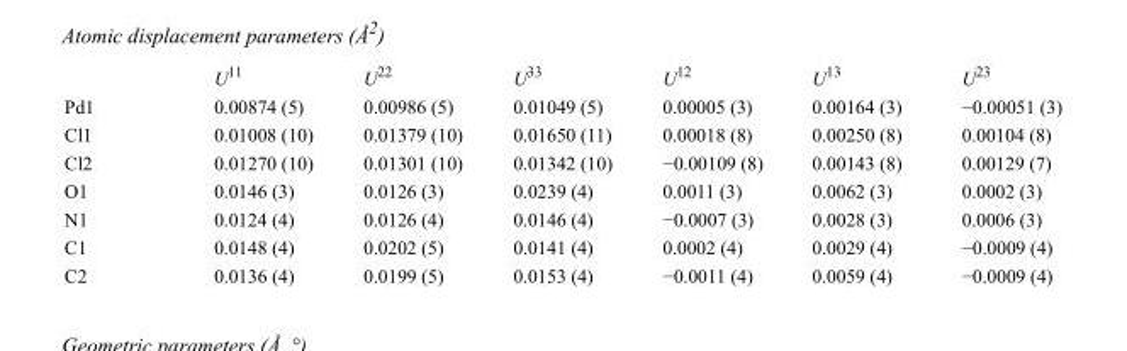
<table><thead><tr><td></td><td>U<sup>11</sup></td><td>U<sup>22</sup></td><td>U<sup>33</sup></td><td>U<sup>12</sup></td><td>U<sup>13</sup></td><td>U<sup>23</sup></td></tr></thead><tbody><tr><td>Pd1</td><td>0.00874 (5)</td><td>0.00986 (5)</td><td>0.01049 (5)</td><td>0.00005 (3)</td><td>0.00164 (3)</td><td>−0.00051 (3)</td></tr><tr><td>Cl1</td><td>0.01008 (10)</td><td>0.01379 (10)</td><td>0.01650 (11)</td><td>0.00018 (8)</td><td>0.00250 (8)</td><td>0.00104 (8)</td></tr><tr><td>Cl2</td><td>0.01270 (10)</td><td>0.01301 (10)</td><td>0.01342 (10)</td><td>−0.00109 (8)</td><td>0.00143 (8)</td><td>0.00129 (7)</td></tr><tr><td>O1</td><td>0.0146 (3)</td><td>0.0126 (3)</td><td>0.0239 (4)</td><td>0.0011 (3)</td><td>0.0062 (3)</td><td>0.0002 (3)</td></tr><tr><td>N1</td><td>0.0124 (4)</td><td>0.0126 (4)</td><td>0.0146 (4)</td><td>−0.0007 (3)</td><td>0.0028 (3)</td><td>0.0006 (3)</td></tr><tr><td>C1</td><td>0.0148 (4)</td><td>0.0202 (5)</td><td>0.0141 (4)</td><td>0.0002 (4)</td><td>0.0029 (4)</td><td>−0.0009 (4)</td></tr><tr><td>C2</td><td>0.0136 (4)</td><td>0.0199 (5)</td><td>0.0153 (4)</td><td>−0.0011 (4)</td><td>0.0059 (4)</td><td>−0.0009 (4)</td></tr></tbody></table>